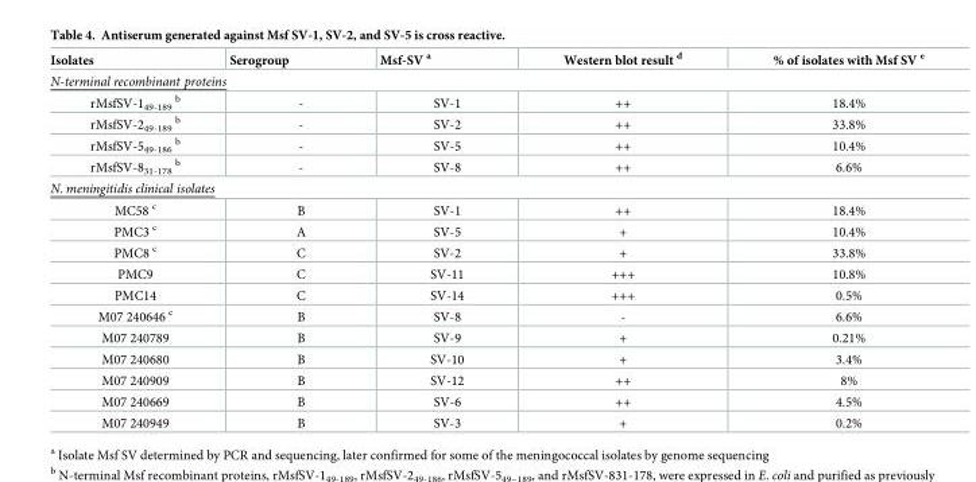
<table><thead><tr><td>Isolates</td><td>Serogroup</td><td>Msf-SV <sup>a</sup></td><td>Western blot result <sup>d</sup></td><td>% of isolates with Msf SV <sup>e</sup></td></tr></thead><tbody><tr><td colspan="5">N-terminal recombinant proteins</td></tr><tr><td>rMsfSV-1<sub>49-189</sub> <sup>b</sup></td><td>-</td><td>SV-1</td><td>++</td><td>18.4%</td></tr><tr><td>rMsfSV-2<sub>49-189</sub> <sup>b</sup></td><td>-</td><td>SV-2</td><td>++</td><td>33.8%</td></tr><tr><td>rMsfSV-5<sub>49-186</sub> <sup>b</sup></td><td>-</td><td>SV-5</td><td>++</td><td>10.4%</td></tr><tr><td>rMsfSV-8<sub>31-178</sub> <sup>b</sup></td><td>-</td><td>SV-8</td><td>++</td><td>6.6%</td></tr><tr><td colspan="5">N. meningitidis clinical isolates</td></tr><tr><td>MC58 <sup>c</sup></td><td>B</td><td>SV-1</td><td>++</td><td>18.4%</td></tr><tr><td>PMC3 <sup>c</sup></td><td>A</td><td>SV-5</td><td>+</td><td>10.4%</td></tr><tr><td>PMC8 <sup>c</sup></td><td>C</td><td>SV-2</td><td>+</td><td>33.8%</td></tr><tr><td>PMC9</td><td>C</td><td>SV-11</td><td>+++</td><td>10.8%</td></tr><tr><td>PMC14</td><td>C</td><td>SV-14</td><td>+++</td><td>0.5%</td></tr><tr><td>M07 240646 <sup>c</sup></td><td>B</td><td>SV-8</td><td>-</td><td>6.6%</td></tr><tr><td>M07 240789</td><td>B</td><td>SV-9</td><td>+</td><td>0.21%</td></tr><tr><td>M07 240680</td><td>B</td><td>SV-10</td><td>+</td><td>3.4%</td></tr><tr><td>M07 240909</td><td>B</td><td>SV-12</td><td>++</td><td>8%</td></tr><tr><td>M07 240669</td><td>B</td><td>SV-6</td><td>++</td><td>4.5%</td></tr><tr><td>M07 240949</td><td>B</td><td>SV-3</td><td>+</td><td>0.2%</td></tr></tbody></table>